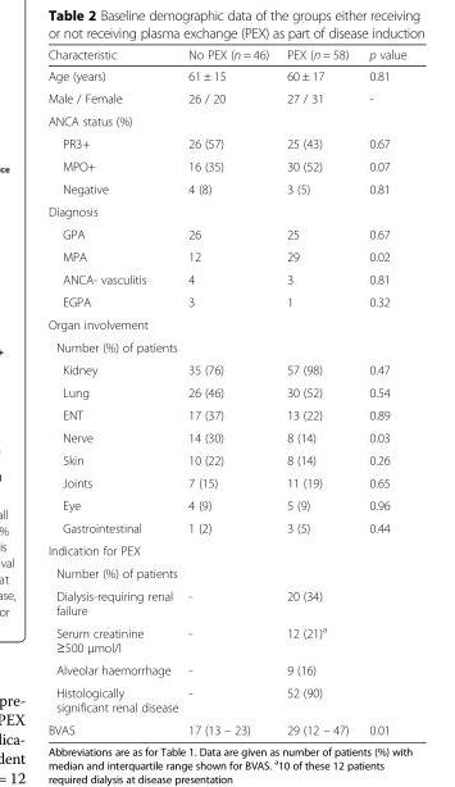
<table><thead><tr><td>Characteristic</td><td>No PEX (n = 46)</td><td>PEX (n = 58)</td><td>p value</td></tr></thead><tbody><tr><td>Age (years)</td><td>61 ± 15</td><td>60 ± 17</td><td>0.81</td></tr><tr><td>Male / Female</td><td>26 / 20</td><td>27 / 31</td><td>-</td></tr><tr><td colspan="4">ANCA status (%)</td></tr><tr><td>PR3+</td><td>26 (57)</td><td>25 (43)</td><td>0.67</td></tr><tr><td>MPO+</td><td>16 (35)</td><td>30 (52)</td><td>0.07</td></tr><tr><td>Negative</td><td>4 (8)</td><td>3 (5)</td><td>0.81</td></tr><tr><td colspan="4">Diagnosis</td></tr><tr><td>GPA</td><td>26</td><td>25</td><td>0.67</td></tr><tr><td>MPA</td><td>12</td><td>29</td><td>0.02</td></tr><tr><td>ANCA- vasculitis</td><td>4</td><td>3</td><td>0.81</td></tr><tr><td>EGPA</td><td>3</td><td>1</td><td>0.32</td></tr><tr><td colspan="4">Organ involvement</td></tr><tr><td colspan="4">Number (%) of patients</td></tr><tr><td>Kidney</td><td>35 (76)</td><td>57 (98)</td><td>0.47</td></tr><tr><td>Lung</td><td>26 (46)</td><td>30 (52)</td><td>0.54</td></tr><tr><td>ENT</td><td>17 (37)</td><td>13 (22)</td><td>0.89</td></tr><tr><td>Nerve</td><td>14 (30)</td><td>8 (14)</td><td>0.03</td></tr><tr><td>Skin</td><td>10 (22)</td><td>8 (14)</td><td>0.26</td></tr><tr><td>Joints</td><td>7 (15)</td><td>11 (19)</td><td>0.65</td></tr><tr><td>Eye</td><td>4 (9)</td><td>5 (9)</td><td>0.96</td></tr><tr><td>Gastrointestinal</td><td>1 (2)</td><td>3 (5)</td><td>0.44</td></tr><tr><td colspan="4">Indication for PEX</td></tr><tr><td colspan="4">Number (%) of patients</td></tr><tr><td>Dialysis-requiring renal failure</td><td>-</td><td>20 (34)</td><td></td></tr><tr><td>Serum creatinine ≥500 μmol/l</td><td>-</td><td>12 (21)<sup>a</sup></td><td></td></tr><tr><td>Alveolar haemorrhage</td><td>-</td><td>9 (16)</td><td></td></tr><tr><td>Histologically significant renal disease</td><td>-</td><td>52 (90)</td><td></td></tr><tr><td>BVAS</td><td>17 (13 – 23)</td><td>29 (12 – 47)</td><td>0.01</td></tr></tbody></table>